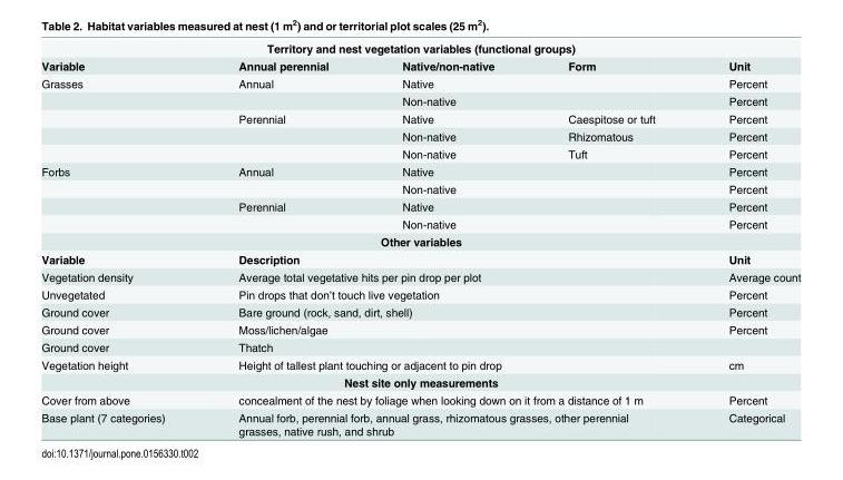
<table><tbody><tr><td colspan="5">Territory and nest vegetation variables (functional groups)</td></tr><tr><td>Variable</td><td>Annual perennial</td><td>Native/non-native</td><td>Form</td><td>Unit</td></tr><tr><td rowspan="5">Grasses</td><td>Annual</td><td>Native</td><td></td><td>Percent</td></tr><tr><td></td><td>Non-native</td><td></td><td>Percent</td></tr><tr><td>Perennial</td><td>Native</td><td>Caespitose or tuft</td><td>Percent</td></tr><tr><td></td><td>Non-native</td><td>Rhizomatous</td><td>Percent</td></tr><tr><td></td><td>Non-native</td><td>Tuft</td><td>Percent</td></tr><tr><td rowspan="4">Forbs</td><td>Annual</td><td>Native</td><td></td><td>Percent</td></tr><tr><td></td><td>Non-native</td><td></td><td>Percent</td></tr><tr><td>Perennial</td><td>Native</td><td></td><td>Percent</td></tr><tr><td></td><td>Non-native</td><td></td><td>Percent</td></tr><tr><td colspan="5">Other variables</td></tr><tr><td>Variable</td><td colspan="3">Description</td><td>Unit</td></tr><tr><td>Vegetation density</td><td colspan="3">Average total vegetative hits per pin drop per plot</td><td>Average count</td></tr><tr><td>Unvegetated</td><td colspan="3">Pin drops that don’t touch live vegetation</td><td>Percent</td></tr><tr><td>Ground cover</td><td colspan="3">Bare ground (rock, sand, dirt, shell)</td><td>Percent</td></tr><tr><td>Ground cover</td><td colspan="3">Moss/lichen/algae</td><td>Percent</td></tr><tr><td>Ground cover</td><td colspan="3">Thatch</td><td></td></tr><tr><td>Vegetation height</td><td colspan="3">Height of tallest plant touching or adjacent to pin drop</td><td>cm</td></tr><tr><td colspan="5">Nest site only measurements</td></tr><tr><td>Cover from above</td><td colspan="3">concealment of the nest by foliage when looking down on it from a distance of 1 m</td><td>Percent</td></tr><tr><td>Base plant (7 categories)</td><td colspan="3">Annual forb, perennial forb, annual grass, rhizomatous grasses, other perennial grasses, native rush, and shrub</td><td>Categorical</td></tr></tbody></table>